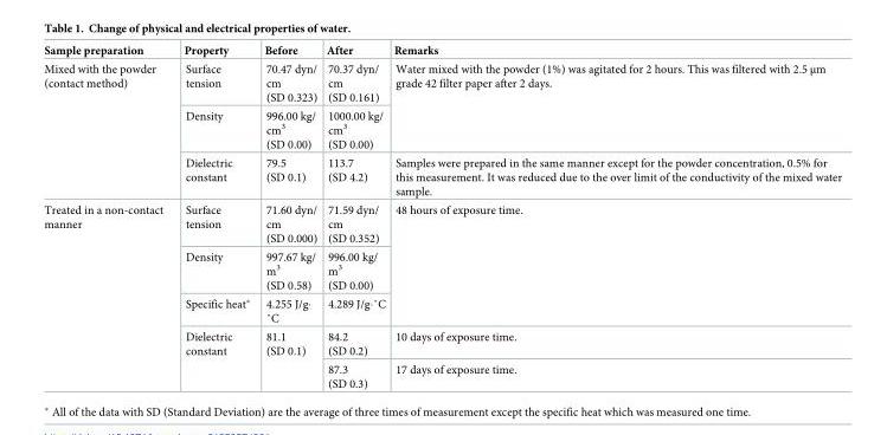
<table><thead><tr><td>Sample preparation</td><td>Property</td><td>Before</td><td>After</td><td>Remarks</td></tr></thead><tbody><tr><td rowspan="3">Mixed with the powder (contact method)</td><td>Surface tension</td><td>70.47 dyn/ cm (SD 0.323)</td><td>70.37 dyn/ cm (SD 0.161)</td><td rowspan="2">Water mixed with the powder (1%) was agitated for 2 hours. This was filtered with 2.5 μm grade 42 filter paper after 2 days.</td></tr><tr><td>Density</td><td>996.00 kg/ cm<sup>3</sup> (SD 0.00)</td><td>1000.00 kg/ cm<sup>3</sup> (SD 0.00)</td></tr><tr><td>Dielectric constant</td><td>79.5 (SD 0.1)</td><td>113.7 (SD 4.2)</td><td>Samples were prepared in the same manner except for the powder concentration, 0.5% for this measurement. It was reduced due to the over limit of the conductivity of the mixed water sample.</td></tr><tr><td rowspan="5">Treated in a non-contact manner</td><td>Surface tension</td><td>71.60 dyn/ cm (SD 0.000)</td><td>71.59 dyn/ cm (SD 0.352)</td><td rowspan="3">48 hours of exposure time.</td></tr><tr><td>Density</td><td>997.67 kg/ m<sup>3</sup> (SD 0.58)</td><td>996.00 kg/ m<sup>3</sup> (SD 0.00)</td></tr><tr><td>Specific heat*</td><td>4.255 J/g· ˚C</td><td>4.289 J/g·˚C</td></tr><tr><td rowspan="2">Dielectric constant</td><td rowspan="2">81.1 (SD 0.1)</td><td>84.2 (SD 0.2)</td><td>10 days of exposure time.</td></tr><tr><td>87.3 (SD 0.3)</td><td>17 days of exposure time.</td></tr></tbody></table>